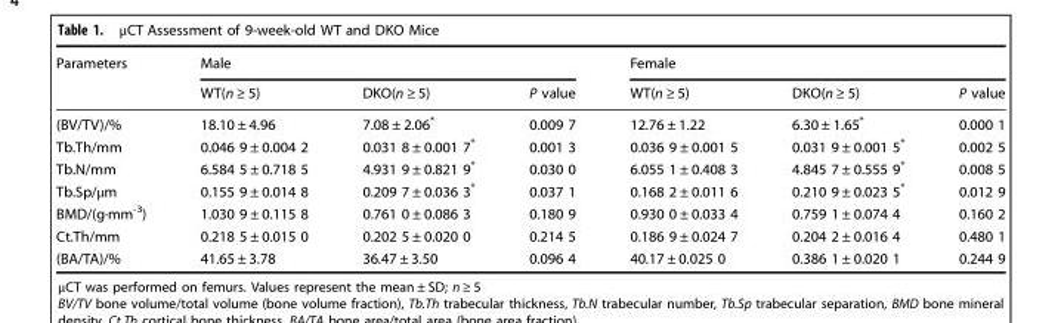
<table><thead><tr><td rowspan="2">Parameters</td><td colspan="3">Male</td><td colspan="3">Female</td></tr><tr><td>WT(n ≥ 5)</td><td>DKO(n ≥ 5)</td><td>P value</td><td>WT(n ≥ 5)</td><td>DKO(n ≥ 5)</td><td>P value</td></tr></thead><tbody><tr><td>(BV/TV)/%</td><td>18.10 ± 4.96</td><td>7.08 ± 2.06*</td><td>0.009 7</td><td>12.76 ± 1.22</td><td>6.30 ± 1.65*</td><td>0.000 1</td></tr><tr><td>Tb.Th/mm</td><td>0.046 9 ± 0.004 2</td><td>0.031 8 ± 0.001 7*</td><td>0.001 3</td><td>0.036 9 ± 0.001 5</td><td>0.031 9 ± 0.001 5*</td><td>0.002 5</td></tr><tr><td>Tb.N/mm</td><td>6.584 5 ± 0.718 5</td><td>4.931 9 ± 0.821 9*</td><td>0.030 0</td><td>6.055 1 ± 0.408 3</td><td>4.845 7 ± 0.555 9*</td><td>0.008 5</td></tr><tr><td>Tb.Sp/μm</td><td>0.155 9 ± 0.014 8</td><td>0.209 7 ± 0.036 3*</td><td>0.037 1</td><td>0.168 2 ± 0.011 6</td><td>0.210 9 ± 0.023 5*</td><td>0.012 9</td></tr><tr><td>BMD/(g·mm<sup>-3</sup>)</td><td>1.030 9 ± 0.115 8</td><td>0.761 0 ± 0.086 3</td><td>0.180 9</td><td>0.930 0 ± 0.033 4</td><td>0.759 1 ± 0.074 4</td><td>0.160 2</td></tr><tr><td>Ct.Th/mm</td><td>0.218 5 ± 0.015 0</td><td>0.202 5 ± 0.020 0</td><td>0.214 5</td><td>0.186 9 ± 0.024 7</td><td>0.204 2 ± 0.016 4</td><td>0.480 1</td></tr><tr><td>(BA/TA)/%</td><td>41.65 ± 3.78</td><td>36.47 ± 3.50</td><td>0.096 4</td><td>40.17 ± 0.025 0</td><td>0.386 1 ± 0.020 1</td><td>0.244 9</td></tr></tbody></table>